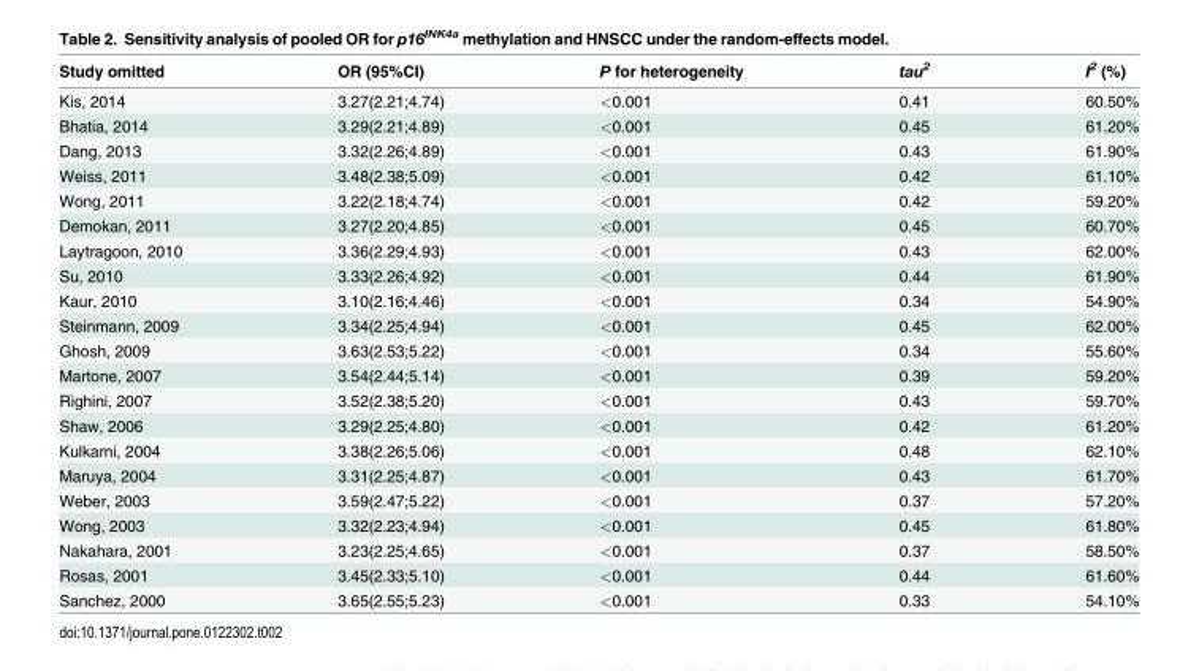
<table><thead><tr><td>Study omitted</td><td>OR (95%CI)</td><td>P for heterogeneity</td><td>tau<sup>2</sup></td><td>I<sup>2</sup> (%)</td></tr></thead><tbody><tr><td>Kis, 2014</td><td>3.27(2.21;4.74)</td><td>&lt;0.001</td><td>0.41</td><td>60.50%</td></tr><tr><td>Bhatia, 2014</td><td>3.29(2.21;4.89)</td><td>&lt;0.001</td><td>0.45</td><td>61.20%</td></tr><tr><td>Dang, 2013</td><td>3.32(2.26;4.89)</td><td>&lt;0.001</td><td>0.43</td><td>61.90%</td></tr><tr><td>Weiss, 2011</td><td>3.48(2.38;5.09)</td><td>&lt;0.001</td><td>0.42</td><td>61.10%</td></tr><tr><td>Wong, 2011</td><td>3.22(2.18;4.74)</td><td>&lt;0.001</td><td>0.42</td><td>59.20%</td></tr><tr><td>Demokan, 2011</td><td>3.27(2.20;4.85)</td><td>&lt;0.001</td><td>0.45</td><td>60.70%</td></tr><tr><td>Laytragoon, 2010</td><td>3.36(2.29;4.93)</td><td>&lt;0.001</td><td>0.43</td><td>62.00%</td></tr><tr><td>Su, 2010</td><td>3.33(2.26;4.92)</td><td>&lt;0.001</td><td>0.44</td><td>61.90%</td></tr><tr><td>Kaur, 2010</td><td>3.10(2.16;4.46)</td><td>&lt;0.001</td><td>0.34</td><td>54.90%</td></tr><tr><td>Steinmann, 2009</td><td>3.34(2.25;4.94)</td><td>&lt;0.001</td><td>0.45</td><td>62.00%</td></tr><tr><td>Ghosh, 2009</td><td>3.63(2.53;5.22)</td><td>&lt;0.001</td><td>0.34</td><td>55.60%</td></tr><tr><td>Martone, 2007</td><td>3.54(2.44;5.14)</td><td>&lt;0.001</td><td>0.39</td><td>59.20%</td></tr><tr><td>Righini, 2007</td><td>3.52(2.38;5.20)</td><td>&lt;0.001</td><td>0.43</td><td>59.70%</td></tr><tr><td>Shaw, 2006</td><td>3.29(2.25;4.80)</td><td>&lt;0.001</td><td>0.42</td><td>61.20%</td></tr><tr><td>Kulkarni, 2004</td><td>3.38(2.26;5.06)</td><td>&lt;0.001</td><td>0.48</td><td>62.10%</td></tr><tr><td>Maruya, 2004</td><td>3.31(2.25;4.87)</td><td>&lt;0.001</td><td>0.43</td><td>61.70%</td></tr><tr><td>Weber, 2003</td><td>3.59(2.47;5.22)</td><td>&lt;0.001</td><td>0.37</td><td>57.20%</td></tr><tr><td>Wong, 2003</td><td>3.32(2.23;4.94)</td><td>&lt;0.001</td><td>0.45</td><td>61.80%</td></tr><tr><td>Nakahara, 2001</td><td>3.23(2.25;4.65)</td><td>&lt;0.001</td><td>0.37</td><td>58.50%</td></tr><tr><td>Rosas, 2001</td><td>3.45(2.33;5.10)</td><td>&lt;0.001</td><td>0.44</td><td>61.60%</td></tr><tr><td>Sanchez, 2000</td><td>3.65(2.55;5.23)</td><td>&lt;0.001</td><td>0.33</td><td>54.10%</td></tr></tbody></table>